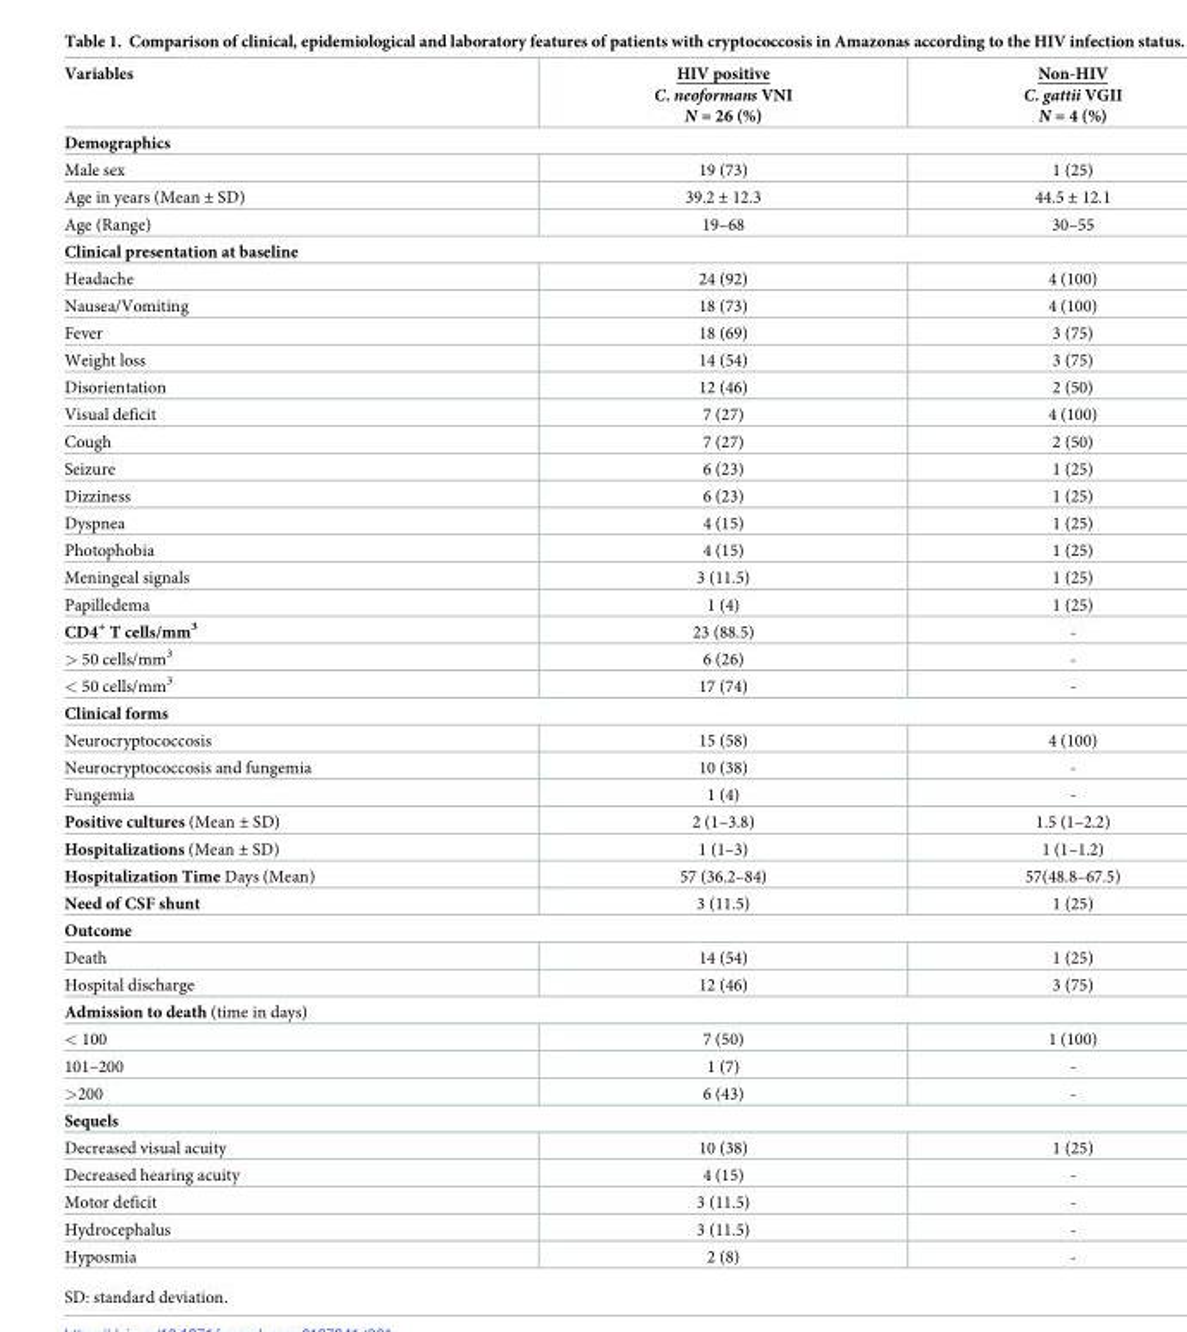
<table><thead><tr><td>Variables</td><td>HIV positive C. neoformans VNI N = 26 (%)</td><td>Non-HIV C. gattii VGII N = 4 (%)</td></tr></thead><tbody><tr><td colspan="3">Demographics</td></tr><tr><td>Male sex</td><td>19 (73)</td><td>1 (25)</td></tr><tr><td>Age in years (Mean ± SD)</td><td>39.2 ± 12.3</td><td>44.5 ± 12.1</td></tr><tr><td>Age (Range)</td><td>19–68</td><td>30–55</td></tr><tr><td colspan="3">Clinical presentation at baseline</td></tr><tr><td>Headache</td><td>24 (92)</td><td>4 (100)</td></tr><tr><td>Nausea/Vomiting</td><td>18 (73)</td><td>4 (100)</td></tr><tr><td>Fever</td><td>18 (69)</td><td>3 (75)</td></tr><tr><td>Weight loss</td><td>14 (54)</td><td>3 (75)</td></tr><tr><td>Disorientation</td><td>12 (46)</td><td>2 (50)</td></tr><tr><td>Visual deficit</td><td>7 (27)</td><td>4 (100)</td></tr><tr><td>Cough</td><td>7 (27)</td><td>2 (50)</td></tr><tr><td>Seizure</td><td>6 (23)</td><td>1 (25)</td></tr><tr><td>Dizziness</td><td>6 (23)</td><td>1 (25)</td></tr><tr><td>Dyspnea</td><td>4 (15)</td><td>1 (25)</td></tr><tr><td>Photophobia</td><td>4 (15)</td><td>1 (25)</td></tr><tr><td>Meningeal signals</td><td>3 (11.5)</td><td>1 (25)</td></tr><tr><td>Papilledema</td><td>1 (4)</td><td>1 (25)</td></tr><tr><td>CD4<sup>+</sup> T cells/mm<sup>3</sup></td><td>23 (88.5)</td><td>-</td></tr><tr><td>&gt; 50 cells/mm<sup>3</sup></td><td>6 (26)</td><td>-</td></tr><tr><td>&lt; 50 cells/mm<sup>3</sup></td><td>17 (74)</td><td>-</td></tr><tr><td colspan="3">Clinical forms</td></tr><tr><td>Neurocryptococcosis</td><td>15 (58)</td><td>4 (100)</td></tr><tr><td>Neurocryptococcosis and fungemia</td><td>10 (38)</td><td>-</td></tr><tr><td>Fungemia</td><td>1 (4)</td><td>-</td></tr><tr><td>Positive cultures (Mean ± SD)</td><td>2 (1–3.8)</td><td>1.5 (1–2.2)</td></tr><tr><td>Hospitalizations (Mean ± SD)</td><td>1 (1–3)</td><td>1 (1–1.2)</td></tr><tr><td>Hospitalization Time Days (Mean)</td><td>57 (36.2–84)</td><td>57(48.8–67.5)</td></tr><tr><td>Need of CSF shunt</td><td>3 (11.5)</td><td>1 (25)</td></tr><tr><td colspan="3">Outcome</td></tr><tr><td>Death</td><td>14 (54)</td><td>1 (25)</td></tr><tr><td>Hospital discharge</td><td>12 (46)</td><td>3 (75)</td></tr><tr><td colspan="3">Admission to death (time in days)</td></tr><tr><td>&lt; 100</td><td>7 (50)</td><td>1 (100)</td></tr><tr><td>101–200</td><td>1 (7)</td><td>-</td></tr><tr><td>&gt;200</td><td>6 (43)</td><td>-</td></tr><tr><td colspan="3">Sequels</td></tr><tr><td>Decreased visual acuity</td><td>10 (38)</td><td>1 (25)</td></tr><tr><td>Decreased hearing acuity</td><td>4 (15)</td><td>-</td></tr><tr><td>Motor deficit</td><td>3 (11.5)</td><td>-</td></tr><tr><td>Hydrocephalus</td><td>3 (11.5)</td><td>-</td></tr><tr><td>Hyposmia</td><td>2 (8)</td><td>-</td></tr></tbody></table>